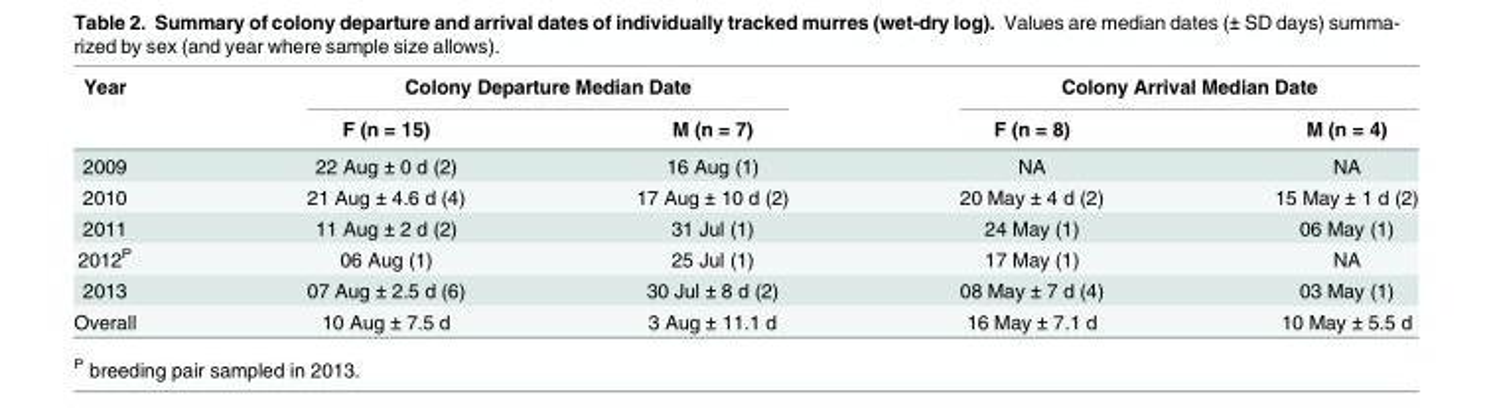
<table><thead><tr><td rowspan="2">Year</td><td colspan="2">Colony Departure Median Date</td><td colspan="2">Colony Arrival Median Date</td></tr><tr><td>F (n = 15)</td><td>M (n = 7)</td><td>F (n = 8)</td><td>M (n = 4)</td></tr></thead><tbody><tr><td>2009</td><td>22 Aug ± 0 d (2)</td><td>16 Aug (1)</td><td>NA</td><td>NA</td></tr><tr><td>2010</td><td>21 Aug ± 4.6 d (4)</td><td>17 Aug ± 10 d (2)</td><td>20 May ± 4 d (2)</td><td>15 May ± 1 d (2)</td></tr><tr><td>2011</td><td>11 Aug ± 2 d (2)</td><td>31 Jul (1)</td><td>24 May (1)</td><td>06 May (1)</td></tr><tr><td>2012<sup>P</sup></td><td>06 Aug (1)</td><td>25 Jul (1)</td><td>17 May (1)</td><td>NA</td></tr><tr><td>2013</td><td>07 Aug ± 2.5 d (6)</td><td>30 Jul ± 8 d (2)</td><td>08 May ± 7 d (4)</td><td>03 May (1)</td></tr><tr><td>Overall</td><td>10 Aug ± 7.5 d</td><td>3 Aug ± 11.1 d</td><td>16 May ± 7.1 d</td><td>10 May ± 5.5 d</td></tr></tbody></table>